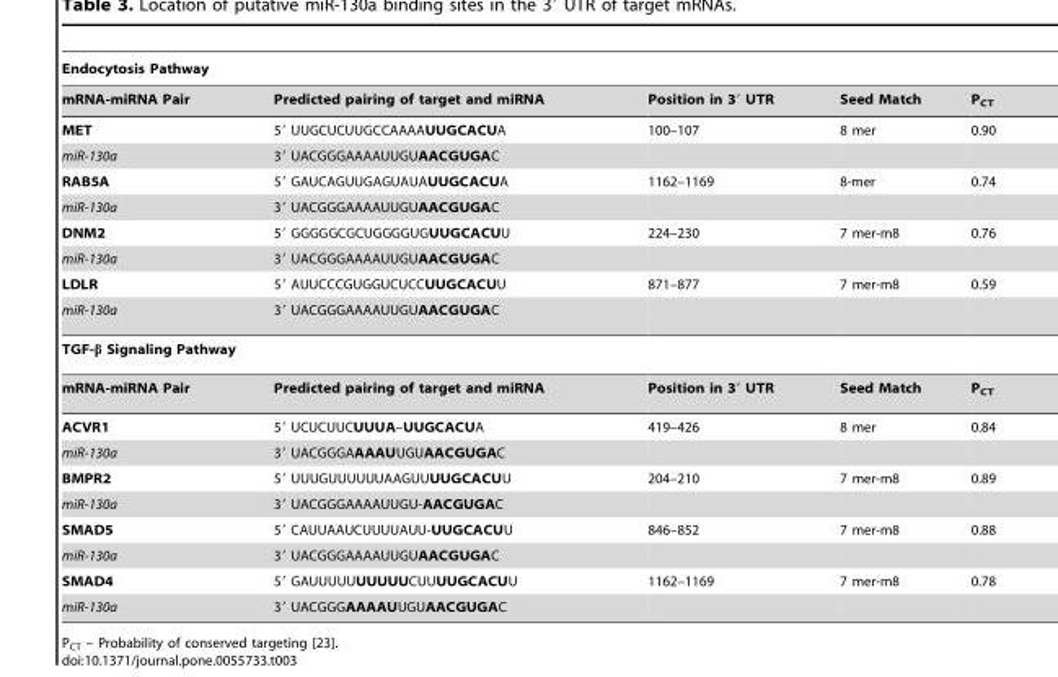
<table><thead><tr><td colspan="5">Endocytosis Pathway</td></tr><tr><td>mRNA-miRNA Pair</td><td>Predicted pairing of target and miRNA</td><td>Position in 3′ UTR</td><td>Seed Match</td><td>P<sub>CT</sub></td></tr></thead><tbody><tr><td>MET</td><td>5′ UUGCUCUUGCCAAAAUUGCACUA</td><td>100–107</td><td>8 mer</td><td>0.90</td></tr><tr><td>miR-130a</td><td>3′ UACGGGAAAAUUGUAACGUGAC</td><td></td><td></td><td></td></tr><tr><td>RAB5A</td><td>5′ GAUCAGUUGAGUAUAUUGCACUA</td><td>1162–1169</td><td>8-mer</td><td>0.74</td></tr><tr><td>miR-130a</td><td>3′ UACGGGAAAAUUGUAACGUGAC</td><td></td><td></td><td></td></tr><tr><td>DNM2</td><td>5′ GGGGGCGCUGGGGUGUUGCACUU</td><td>224–230</td><td>7 mer-m8</td><td>0.76</td></tr><tr><td>miR-130a</td><td>3′ UACGGGAAAAUUGUAACGUGAC</td><td></td><td></td><td></td></tr><tr><td>LDLR</td><td>5′ AUUCCCGUGGUCUCCUUGCACUU</td><td>871–877</td><td>7 mer-m8</td><td>0.59</td></tr><tr><td>miR-130a</td><td>3′ UACGGGAAAAUUGUAACGUGAC</td><td></td><td></td><td></td></tr><tr><td colspan="5">TGF-β Signaling Pathway</td></tr><tr><td>mRNA-miRNA Pair</td><td>Predicted pairing of target and miRNA</td><td>Position in 3′ UTR</td><td>Seed Match</td><td>P<sub>CT</sub></td></tr><tr><td>ACVR1</td><td>5′ UCUCUUCUUUA–UUGCACUA</td><td>419–426</td><td>8 mer</td><td>0.84</td></tr><tr><td>miR-130a</td><td>3′ UACGGGAAAAUUGUAACGUGAC</td><td></td><td></td><td></td></tr><tr><td>BMPR2</td><td>5′ UUUGUUUUUUAAGUUUUGCACUU</td><td>204–210</td><td>7 mer-m8</td><td>0.89</td></tr><tr><td>miR-130a</td><td>3′ UACGGGAAAAUUGU-AACGUGAC</td><td></td><td></td><td></td></tr><tr><td>SMAD5</td><td>5′ CAUUAAUCUUUUAUU-UUGCACUU</td><td>846–852</td><td>7 mer-m8</td><td>0.88</td></tr><tr><td>miR-130a</td><td>3′ UACGGGAAAAUUGUAACGUGAC</td><td></td><td></td><td></td></tr><tr><td>SMAD4</td><td>5′ GAUUUUUUUUUUCUUUUGCACUU</td><td>1162–1169</td><td>7 mer-m8</td><td>0.78</td></tr><tr><td>miR-130a</td><td>3′ UACGGGAAAAUUGUAACGUGAC</td><td></td><td></td><td></td></tr></tbody></table>